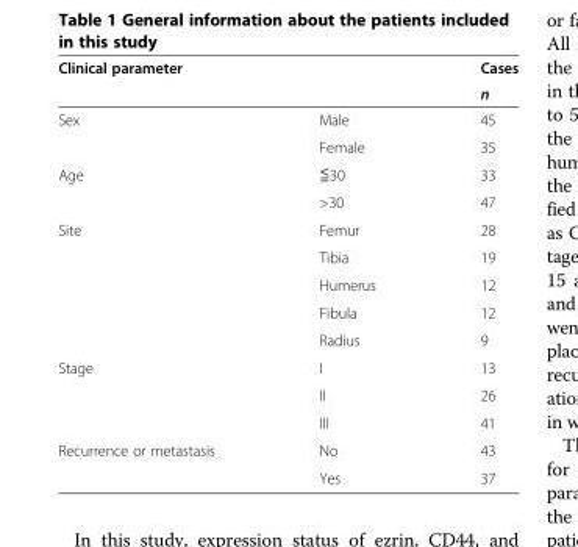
<table><thead><tr><td rowspan="2">Clinical parameter</td><td rowspan="2"></td><td rowspan="2">Cases n</td></tr><tr></tr></thead><tbody><tr><td rowspan="2">Sex</td><td>Male</td><td>45</td></tr><tr><td>Female</td><td>35</td></tr><tr><td rowspan="2">Age</td><td>≦30</td><td>33</td></tr><tr><td>&gt;30</td><td>47</td></tr><tr><td rowspan="5">Site</td><td>Femur</td><td>28</td></tr><tr><td>Tibia</td><td>19</td></tr><tr><td>Humerus</td><td>12</td></tr><tr><td>Fibula</td><td>12</td></tr><tr><td>Radius</td><td>9</td></tr><tr><td rowspan="3">Stage</td><td>I</td><td>13</td></tr><tr><td>II</td><td>26</td></tr><tr><td>III</td><td>41</td></tr><tr><td rowspan="2">Recurrence or metastasis</td><td>No</td><td>43</td></tr><tr><td>Yes</td><td>37</td></tr></tbody></table>